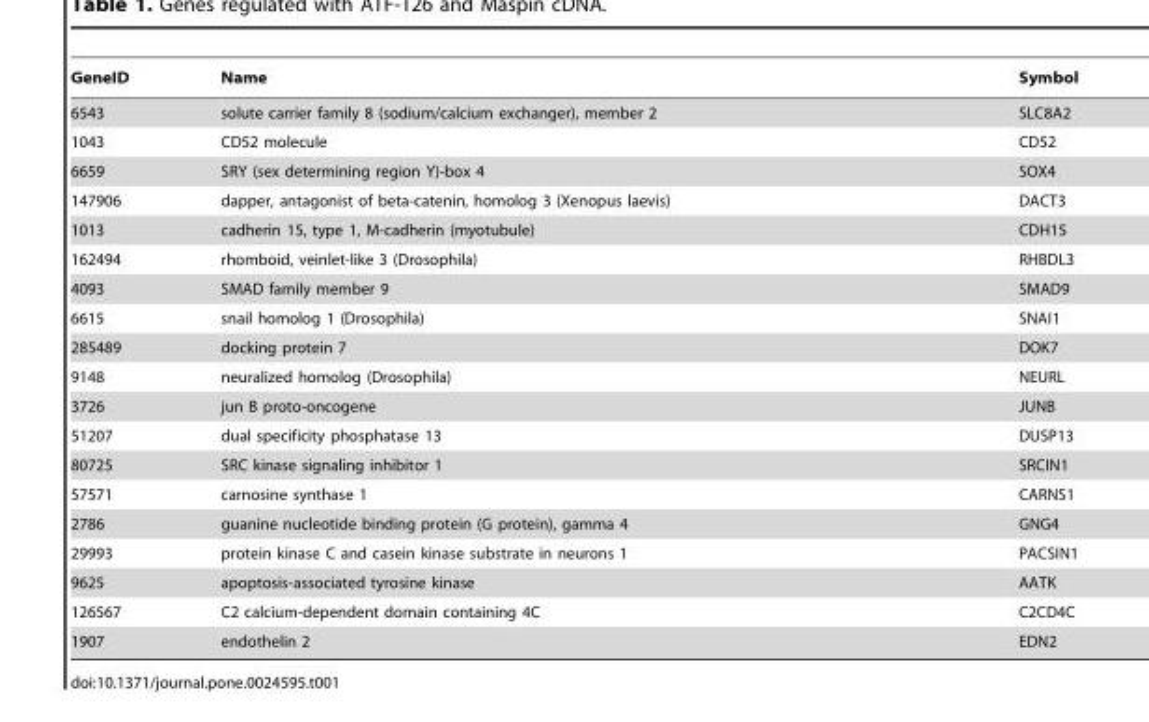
<table><thead><tr><td>GeneID</td><td>Name</td><td>Symbol</td></tr></thead><tbody><tr><td>6543</td><td>solute carrier family 8 (sodium/calcium exchanger), member 2</td><td>SLC8A2</td></tr><tr><td>1043</td><td>CD52 molecule</td><td>CD52</td></tr><tr><td>6659</td><td>SRY (sex determining region Y)-box 4</td><td>SOX4</td></tr><tr><td>147906</td><td>dapper, antagonist of beta-catenin, homolog 3 (Xenopus laevis)</td><td>DACT3</td></tr><tr><td>1013</td><td>cadherin 15, type 1, M-cadherin (myotubule)</td><td>CDH15</td></tr><tr><td>162494</td><td>rhomboid, veinlet-like 3 (Drosophila)</td><td>RHBDL3</td></tr><tr><td>4093</td><td>SMAD family member 9</td><td>SMAD9</td></tr><tr><td>6615</td><td>snail homolog 1 (Drosophila)</td><td>SNAI1</td></tr><tr><td>285489</td><td>docking protein 7</td><td>DOK7</td></tr><tr><td>9148</td><td>neuralized homolog (Drosophila)</td><td>NEURL</td></tr><tr><td>3726</td><td>jun B proto-oncogene</td><td>JUNB</td></tr><tr><td>51207</td><td>dual specificity phosphatase 13</td><td>DUSP13</td></tr><tr><td>80725</td><td>SRC kinase signaling inhibitor 1</td><td>SRCIN1</td></tr><tr><td>57571</td><td>carnosine synthase 1</td><td>CARNS1</td></tr><tr><td>2786</td><td>guanine nucleotide binding protein (G protein), gamma 4</td><td>GNG4</td></tr><tr><td>29993</td><td>protein kinase C and casein kinase substrate in neurons 1</td><td>PACSIN1</td></tr><tr><td>9625</td><td>apoptosis-associated tyrosine kinase</td><td>AATK</td></tr><tr><td>126567</td><td>C2 calcium-dependent domain containing 4C</td><td>C2CD4C</td></tr><tr><td>1907</td><td>endothelin 2</td><td>EDN2</td></tr></tbody></table>